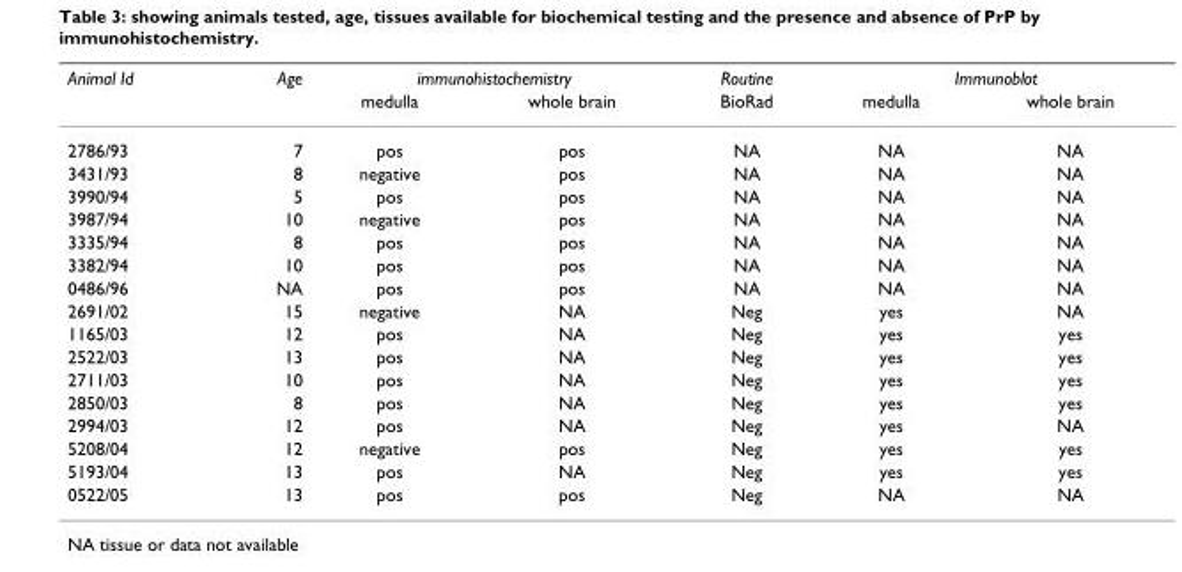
<table><thead><tr><td rowspan="2">Animal Id</td><td rowspan="2">Age</td><td colspan="2">immunohistochemistry</td><td rowspan="2">Routine BioRad</td><td colspan="2">Immunoblot</td></tr><tr><td>medulla</td><td>whole brain</td><td>medulla</td><td>whole brain</td></tr></thead><tbody><tr><td>2786/93</td><td>7</td><td>pos</td><td>pos</td><td>NA</td><td>NA</td><td>NA</td></tr><tr><td>3431/93</td><td>8</td><td>negative</td><td>pos</td><td>NA</td><td>NA</td><td>NA</td></tr><tr><td>3990/94</td><td>5</td><td>pos</td><td>pos</td><td>NA</td><td>NA</td><td>NA</td></tr><tr><td>3987/94</td><td>10</td><td>negative</td><td>pos</td><td>NA</td><td>NA</td><td>NA</td></tr><tr><td>3335/94</td><td>8</td><td>pos</td><td>pos</td><td>NA</td><td>NA</td><td>NA</td></tr><tr><td>3382/94</td><td>10</td><td>pos</td><td>pos</td><td>NA</td><td>NA</td><td>NA</td></tr><tr><td>0486/96</td><td>NA</td><td>pos</td><td>pos</td><td>NA</td><td>NA</td><td>NA</td></tr><tr><td>2691/02</td><td>15</td><td>negative</td><td>NA</td><td>Neg</td><td>yes</td><td>NA</td></tr><tr><td>1165/03</td><td>12</td><td>pos</td><td>NA</td><td>Neg</td><td>yes</td><td>yes</td></tr><tr><td>2522/03</td><td>13</td><td>pos</td><td>NA</td><td>Neg</td><td>yes</td><td>yes</td></tr><tr><td>2711/03</td><td>10</td><td>pos</td><td>NA</td><td>Neg</td><td>yes</td><td>yes</td></tr><tr><td>2850/03</td><td>8</td><td>pos</td><td>NA</td><td>Neg</td><td>yes</td><td>yes</td></tr><tr><td>2994/03</td><td>12</td><td>pos</td><td>NA</td><td>Neg</td><td>yes</td><td>NA</td></tr><tr><td>5208/04</td><td>12</td><td>negative</td><td>pos</td><td>Neg</td><td>yes</td><td>yes</td></tr><tr><td>5193/04</td><td>13</td><td>pos</td><td>NA</td><td>Neg</td><td>yes</td><td>yes</td></tr><tr><td>0522/05</td><td>13</td><td>pos</td><td>pos</td><td>Neg</td><td>NA</td><td>NA</td></tr></tbody></table>